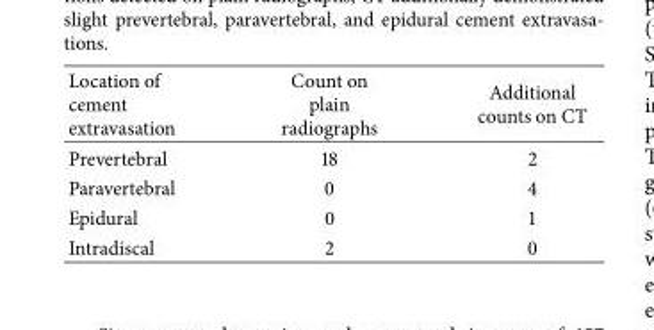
<table><thead><tr><td>Location of cement extravasation</td><td>Count on plain radiographs</td><td>Additional counts on CT</td></tr></thead><tbody><tr><td>Prevertebral</td><td>18</td><td>2</td></tr><tr><td>Paravertebral</td><td>0</td><td>4</td></tr><tr><td>Epidural</td><td>0</td><td>1</td></tr><tr><td>Intradiscal</td><td>2</td><td>0</td></tr></tbody></table>